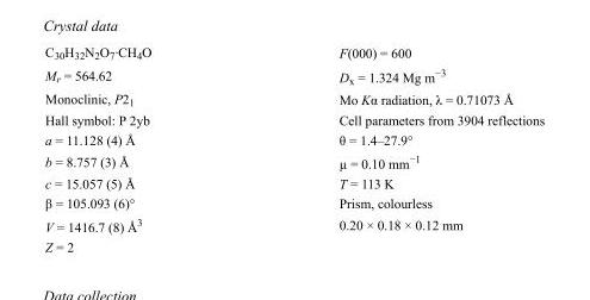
<table><tbody><tr><td>C<sub>30</sub>H<sub>32</sub>N<sub>2</sub>O<sub>7</sub>·CH<sub>4</sub>O</td><td>F(000) = 600</td></tr><tr><td>M<sub>r</sub> = 564.62</td><td>D<sub>x</sub> = 1.324 Mg m<sup>−3</sup></td></tr><tr><td>Monoclinic, P2<sub>1</sub></td><td>Mo Kα radiation, λ = 0.71073 Å</td></tr><tr><td>Hall symbol: P 2yb</td><td>Cell parameters from 3904 reflections</td></tr><tr><td>a = 11.128 (4) Å</td><td>θ = 1.4–27.9°</td></tr><tr><td>b = 8.757 (3) Å</td><td>µ = 0.10 mm<sup>−1</sup></td></tr><tr><td>c = 15.057 (5) Å</td><td>T = 113 K</td></tr><tr><td>β = 105.093 (6)°</td><td>Prism, colourless</td></tr><tr><td>V = 1416.7 (8) Å<sup>3</sup></td><td>0.20 × 0.18 × 0.12 mm</td></tr><tr><td>Z = 2</td><td></td></tr></tbody></table>